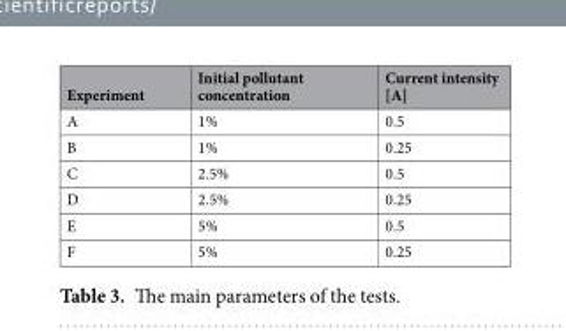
<table><thead><tr><td>Experiment</td><td>Initial pollutant concentration</td><td>Current intensity [A]</td></tr></thead><tbody><tr><td>A</td><td>1%</td><td>0.5</td></tr><tr><td>B</td><td>1%</td><td>0.25</td></tr><tr><td>C</td><td>2.5%</td><td>0.5</td></tr><tr><td>D</td><td>2.5%</td><td>0.25</td></tr><tr><td>E</td><td>5%</td><td>0.5</td></tr><tr><td>F</td><td>5%</td><td>0.25</td></tr></tbody></table>